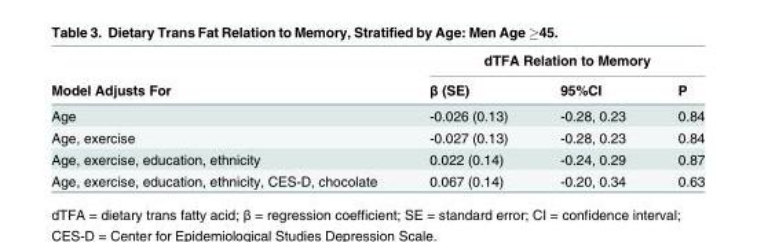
<table><thead><tr><td rowspan="2">Model Adjusts For</td><td colspan="3">dTFA Relation to Memory</td></tr><tr><td>β (SE)</td><td>95%CI</td><td>P</td></tr></thead><tbody><tr><td>Age</td><td>-0.026 (0.13)</td><td>-0.28, 0.23</td><td>0.84</td></tr><tr><td>Age, exercise</td><td>-0.027 (0.13)</td><td>-0.28, 0.23</td><td>0.84</td></tr><tr><td>Age, exercise, education, ethnicity</td><td>0.022 (0.14)</td><td>-0.24, 0.29</td><td>0.87</td></tr><tr><td>Age, exercise, education, ethnicity, CES-D, chocolate</td><td>0.067 (0.14)</td><td>-0.20, 0.34</td><td>0.63</td></tr></tbody></table>